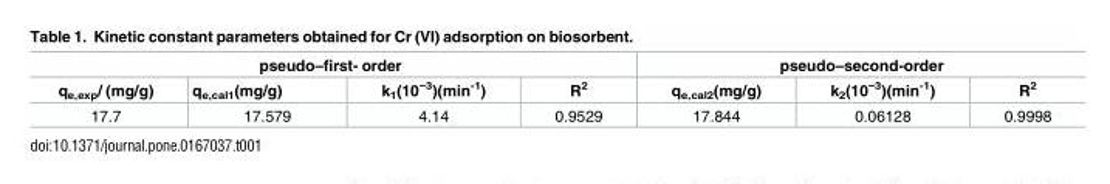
<table><thead><tr><td colspan="4">pseudo–first- order</td><td colspan="3">pseudo–second-order</td></tr><tr><td>q<sub>e,exp</sub>/ (mg/g)</td><td>q<sub>e,cal1</sub>(mg/g)</td><td>k<sub>1</sub>(10<sup>−3</sup>)(min<sup>-1</sup>)</td><td>R<sup>2</sup></td><td>q<sub>e,cal2</sub>(mg/g)</td><td>k<sub>2</sub>(10<sup>−3</sup>)(min<sup>-1</sup>)</td><td>R<sup>2</sup></td></tr></thead><tbody><tr><td>17.7</td><td>17.579</td><td>4.14</td><td>0.9529</td><td>17.844</td><td>0.06128</td><td>0.9998</td></tr></tbody></table>